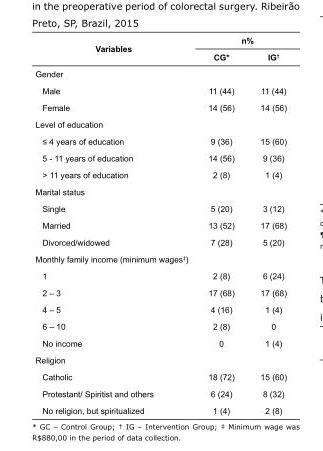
<table><tbody><tr><td rowspan="2">Variables</td><td colspan="2">n%</td></tr><tr><td>CG*</td><td>IG<sup>†</sup></td></tr><tr><td colspan="3">Gender</td></tr><tr><td>Male</td><td>11 (44)</td><td>11 (44)</td></tr><tr><td>Female</td><td>14 (56)</td><td>14 (56)</td></tr><tr><td colspan="3">Level of education</td></tr><tr><td>≤ 4 years of education</td><td>9 (36)</td><td>15 (60)</td></tr><tr><td>5 - 11 years of education</td><td>14 (56)</td><td>9 (36)</td></tr><tr><td>&gt; 11 years of education</td><td>2 (8)</td><td>1 (4)</td></tr><tr><td colspan="3">Marital status</td></tr><tr><td>Single</td><td>5 (20)</td><td>3 (12)</td></tr><tr><td>Married</td><td>13 (52)</td><td>17 (68)</td></tr><tr><td>Divorced/widowed</td><td>7 (28)</td><td>5 (20)</td></tr><tr><td colspan="3">Monthly family income (minimum wages<sup>‡</sup>)</td></tr><tr><td>1</td><td>2 (8)</td><td>6 (24)</td></tr><tr><td>2 – 3</td><td>17 (68)</td><td>17 (68)</td></tr><tr><td>4 – 5</td><td>4 (16)</td><td>1 (4)</td></tr><tr><td>6 – 10</td><td>2 (8)</td><td>0</td></tr><tr><td>No income</td><td>0</td><td>1 (4)</td></tr><tr><td colspan="3">Religion</td></tr><tr><td>Catholic</td><td>18 (72)</td><td>15 (60)</td></tr><tr><td>Protestant/ Spiritist and others</td><td>6 (24)</td><td>8 (32)</td></tr><tr><td>No religion, but spiritualized</td><td>1 (4)</td><td>2 (8)</td></tr></tbody></table>